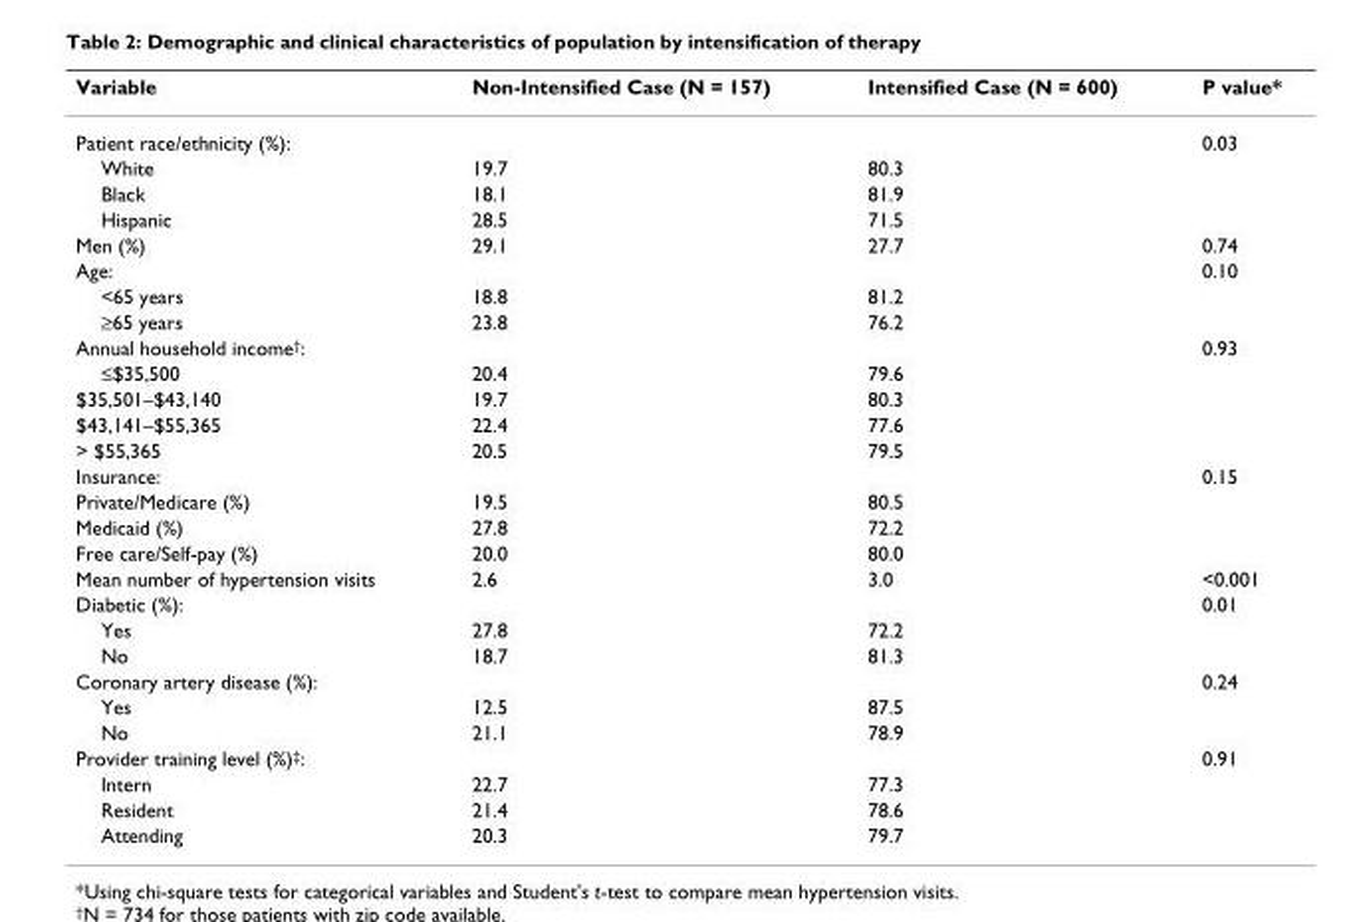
<table><thead><tr><td>Variable</td><td>Non-Intensified Case (N = 157)</td><td>Intensified Case (N = 600)</td><td>P value*</td></tr></thead><tbody><tr><td>Patient race/ethnicity (%):</td><td></td><td></td><td>0.03</td></tr><tr><td>White</td><td>19.7</td><td>80.3</td><td></td></tr><tr><td>Black</td><td>18.1</td><td>81.9</td><td></td></tr><tr><td>Hispanic</td><td>28.5</td><td>71.5</td><td></td></tr><tr><td>Men (%)</td><td>29.1</td><td>27.7</td><td>0.74</td></tr><tr><td>Age:</td><td></td><td></td><td>0.10</td></tr><tr><td>&lt;65 years</td><td>18.8</td><td>81.2</td><td></td></tr><tr><td>≥65 years</td><td>23.8</td><td>76.2</td><td></td></tr><tr><td>Annual household income<sup>†</sup>:</td><td></td><td></td><td>0.93</td></tr><tr><td>≤$35,500</td><td>20.4</td><td>79.6</td><td></td></tr><tr><td>$35,501–$43,140</td><td>19.7</td><td>80.3</td><td></td></tr><tr><td>$43,141–$55,365</td><td>22.4</td><td>77.6</td><td></td></tr><tr><td>&gt; $55,365</td><td>20.5</td><td>79.5</td><td></td></tr><tr><td>Insurance:</td><td></td><td></td><td>0.15</td></tr><tr><td>Private/Medicare (%)</td><td>19.5</td><td>80.5</td><td></td></tr><tr><td>Medicaid (%)</td><td>27.8</td><td>72.2</td><td></td></tr><tr><td>Free care/Self-pay (%)</td><td>20.0</td><td>80.0</td><td></td></tr><tr><td>Mean number of hypertension visits</td><td>2.6</td><td>3.0</td><td>&lt;0.001</td></tr><tr><td>Diabetic (%):</td><td></td><td></td><td>0.01</td></tr><tr><td>Yes</td><td>27.8</td><td>72.2</td><td></td></tr><tr><td>No</td><td>18.7</td><td>81.3</td><td></td></tr><tr><td>Coronary artery disease (%):</td><td></td><td></td><td>0.24</td></tr><tr><td>Yes</td><td>12.5</td><td>87.5</td><td></td></tr><tr><td>No</td><td>21.1</td><td>78.9</td><td></td></tr><tr><td>Provider training level (%)<sup>‡</sup>:</td><td></td><td></td><td>0.91</td></tr><tr><td>Intern</td><td>22.7</td><td>77.3</td><td></td></tr><tr><td>Resident</td><td>21.4</td><td>78.6</td><td></td></tr><tr><td>Attending</td><td>20.3</td><td>79.7</td><td></td></tr></tbody></table>